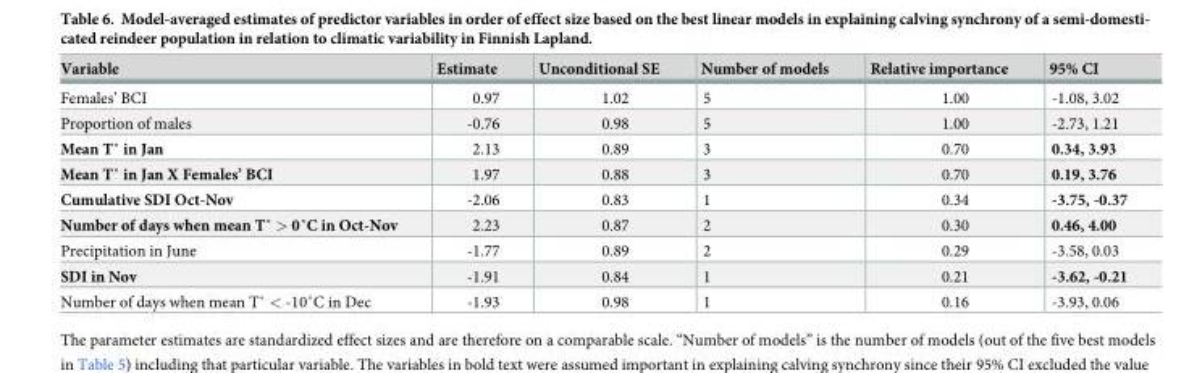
<table><thead><tr><td>Variable</td><td>Estimate</td><td>Unconditional SE</td><td>Number of models</td><td>Relative importance</td><td>95% CI</td></tr></thead><tbody><tr><td>Females’ BCI</td><td>0.97</td><td>1.02</td><td>5</td><td>1.00</td><td>-1.08, 3.02</td></tr><tr><td>Proportion of males</td><td>-0.76</td><td>0.98</td><td>5</td><td>1.00</td><td>-2.73, 1.21</td></tr><tr><td>Mean T˚ in Jan</td><td>2.13</td><td>0.89</td><td>3</td><td>0.70</td><td>0.34, 3.93</td></tr><tr><td>Mean T˚ in Jan X Females’ BCI</td><td>1.97</td><td>0.88</td><td>3</td><td>0.70</td><td>0.19, 3.76</td></tr><tr><td>Cumulative SDI Oct-Nov</td><td>-2.06</td><td>0.83</td><td>1</td><td>0.34</td><td>-3.75, -0.37</td></tr><tr><td>Number of days when mean T˚ &gt; 0˚C in Oct-Nov</td><td>2.23</td><td>0.87</td><td>2</td><td>0.30</td><td>0.46, 4.00</td></tr><tr><td>Precipitation in June</td><td>-1.77</td><td>0.89</td><td>2</td><td>0.29</td><td>-3.58, 0.03</td></tr><tr><td>SDI in Nov</td><td>-1.91</td><td>0.84</td><td>1</td><td>0.21</td><td>-3.62, -0.21</td></tr><tr><td>Number of days when mean T˚ &lt; -10˚C in Dec</td><td>-1.93</td><td>0.98</td><td>1</td><td>0.16</td><td>-3.93, 0.06</td></tr></tbody></table>